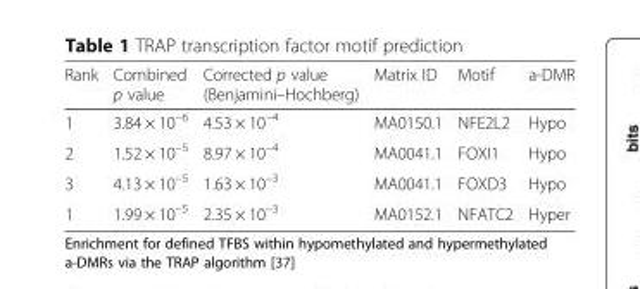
<table><thead><tr><td>Rank</td><td>Combined p value</td><td>Corrected p value (Benjamini–Hochberg)</td><td>Matrix ID</td><td>Motif</td><td>a-DMR</td></tr></thead><tbody><tr><td>1</td><td>3.84 × 10<sup>–6</sup></td><td>4.53 × 10<sup>–4</sup></td><td>MA0150.1</td><td>NFE2L2</td><td>Hypo</td></tr><tr><td>2</td><td>1.52 × 10<sup>–5</sup></td><td>8.97 × 10<sup>–4</sup></td><td>MA0041.1</td><td>FOXI1</td><td>Hypo</td></tr><tr><td>3</td><td>4.13 × 10<sup>–5</sup></td><td>1.63 × 10<sup>–3</sup></td><td>MA0041.1</td><td>FOXD3</td><td>Hypo</td></tr><tr><td>1</td><td>1.99 × 10<sup>–5</sup></td><td>2.35 × 10<sup>–3</sup></td><td>MA0152.1</td><td>NFATC2</td><td>Hyper</td></tr></tbody></table>